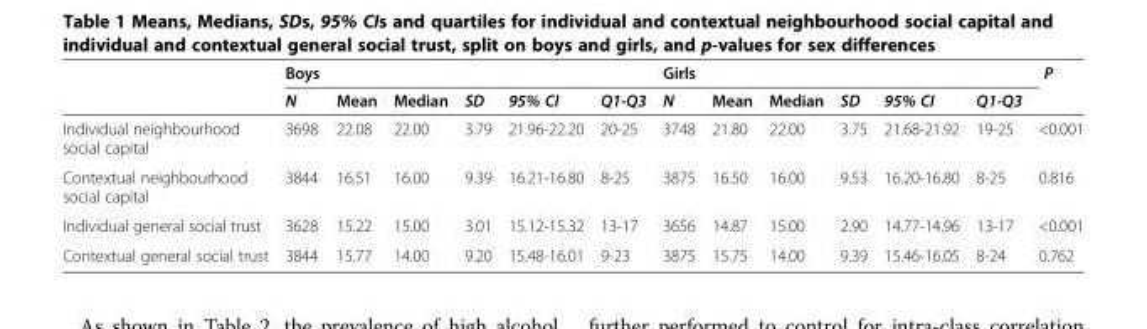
<table><thead><tr><td rowspan="2"></td><td rowspan="2">Boys N</td><td rowspan="2">Mean</td><td rowspan="2">Median</td><td rowspan="2">SD</td><td rowspan="2">95% CI</td><td rowspan="2">Q1-Q3</td><td rowspan="2">Girls N</td><td rowspan="2">Mean</td><td rowspan="2">Median</td><td rowspan="2">SD</td><td rowspan="2">95% CI</td><td rowspan="2">Q1-Q3</td><td rowspan="2">P</td></tr><tr></tr></thead><tbody><tr><td>Individual neighbourhood social capital</td><td>3698</td><td>22.08</td><td>22.00</td><td>3.79</td><td>21.96-22.20</td><td>20-25</td><td>3748</td><td>21.80</td><td>22.00</td><td>3.75</td><td>21.68-21.92</td><td>19-25</td><td>&lt;0.001</td></tr><tr><td>Contextual neighbourhood social capital</td><td>3844</td><td>16.51</td><td>16.00</td><td>9.39</td><td>16.21-16.80</td><td>8-25</td><td>3875</td><td>16.50</td><td>16.00</td><td>9.53</td><td>16.20-16.80</td><td>8-25</td><td>0.816</td></tr><tr><td>Individual general social trust</td><td>3628</td><td>15.22</td><td>15.00</td><td>3.01</td><td>15.12-15.32</td><td>13-17</td><td>3656</td><td>14.87</td><td>15.00</td><td>2.90</td><td>14.77-14.96</td><td>13-17</td><td>&lt;0.001</td></tr><tr><td>Contextual general social trust</td><td>3844</td><td>15.77</td><td>14.00</td><td>9.20</td><td>15.48-16.01</td><td>9-23</td><td>3875</td><td>15.75</td><td>14.00</td><td>9.39</td><td>15.46-16.05</td><td>8-24</td><td>0.762</td></tr></tbody></table>